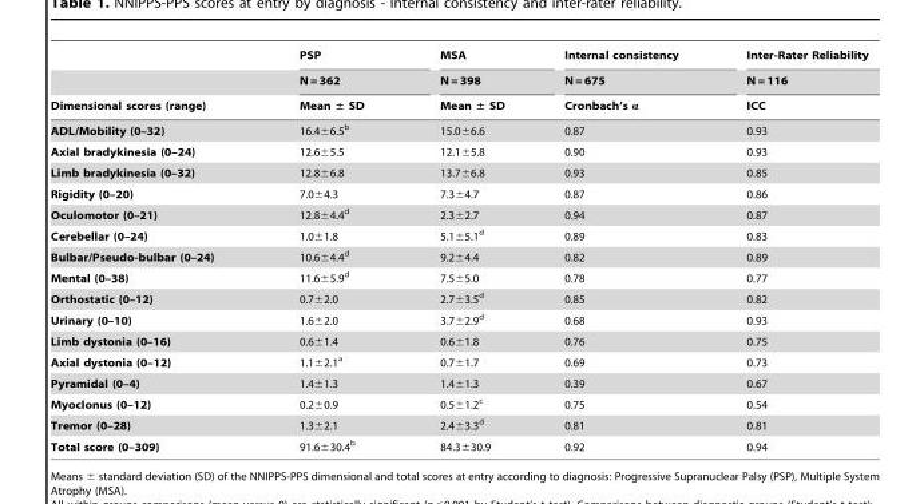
<table><thead><tr><td rowspan="3">Dimensional scores (range)</td><td rowspan="3">PSP N = 362 Mean ± SD</td><td rowspan="3">MSA N = 398 Mean ± SD</td><td rowspan="3">Internal consistency N = 675 Cronbach’s α</td><td rowspan="3">Inter-Rater Reliability N = 116 ICC</td></tr><tr></tr><tr></tr></thead><tbody><tr><td>ADL/Mobility (0–32)</td><td>16.4±6.5<sup>b</sup></td><td>15.0±6.6</td><td>0.87</td><td>0.93</td></tr><tr><td>Axial bradykinesia (0–24)</td><td>12.6±5.5</td><td>12.1±5.8</td><td>0.90</td><td>0.93</td></tr><tr><td>Limb bradykinesia (0–32)</td><td>12.8±6.8</td><td>13.7±6.8</td><td>0.93</td><td>0.85</td></tr><tr><td>Rigidity (0–20)</td><td>7.0±4.3</td><td>7.3±4.7</td><td>0.87</td><td>0.86</td></tr><tr><td>Oculomotor (0–21)</td><td>12.8±4.4<sup>d</sup></td><td>2.3±2.7</td><td>0.94</td><td>0.87</td></tr><tr><td>Cerebellar (0–24)</td><td>1.0±1.8</td><td>5.1±5.1<sup>d</sup></td><td>0.89</td><td>0.83</td></tr><tr><td>Bulbar/Pseudo-bulbar (0–24)</td><td>10.6±4.4<sup>d</sup></td><td>9.2±4.4</td><td>0.82</td><td>0.89</td></tr><tr><td>Mental (0–38)</td><td>11.6±5.9<sup>d</sup></td><td>7.5±5.0</td><td>0.78</td><td>0.77</td></tr><tr><td>Orthostatic (0–12)</td><td>0.7±2.0</td><td>2.7±3.5<sup>d</sup></td><td>0.85</td><td>0.82</td></tr><tr><td>Urinary (0–10)</td><td>1.6±2.0</td><td>3.7±2.9<sup>d</sup></td><td>0.68</td><td>0.93</td></tr><tr><td>Limb dystonia (0–16)</td><td>0.6±1.4</td><td>0.6±1.8</td><td>0.76</td><td>0.75</td></tr><tr><td>Axial dystonia (0–12)</td><td>1.1±2.1<sup>a</sup></td><td>0.7±1.7</td><td>0.69</td><td>0.73</td></tr><tr><td>Pyramidal (0–4)</td><td>1.4±1.3</td><td>1.4±1.3</td><td>0.39</td><td>0.67</td></tr><tr><td>Myoclonus (0–12)</td><td>0.2±0.9</td><td>0.5±1.2<sup>c</sup></td><td>0.75</td><td>0.54</td></tr><tr><td>Tremor (0–28)</td><td>1.3±2.1</td><td>2.4±3.3<sup>d</sup></td><td>0.81</td><td>0.81</td></tr><tr><td>Total score (0–309)</td><td>91.6±30.4<sup>b</sup></td><td>84.3±30.9</td><td>0.92</td><td>0.94</td></tr></tbody></table>